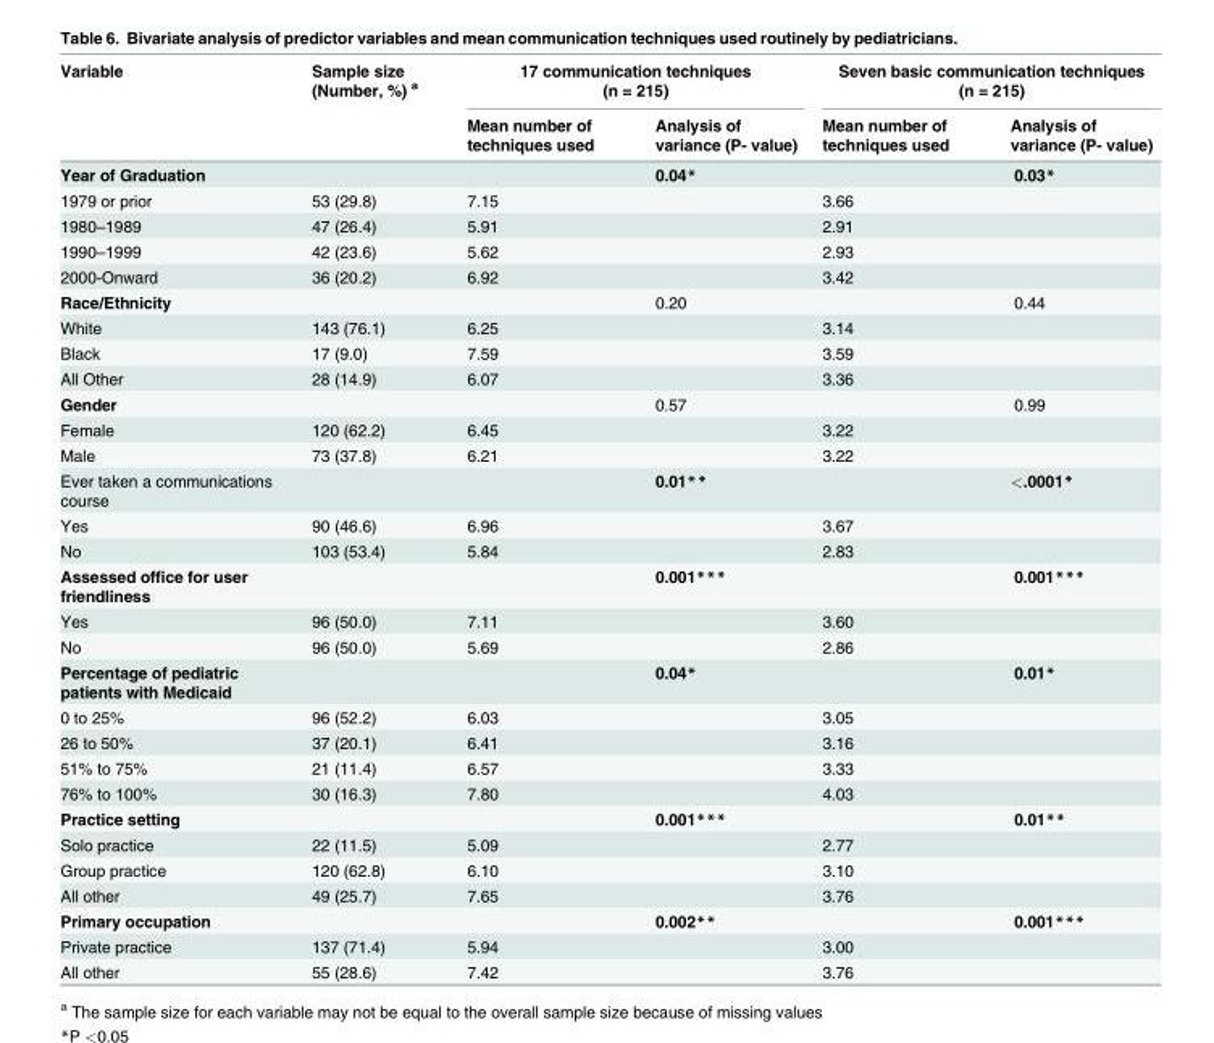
<table><thead><tr><td rowspan="2">Variable</td><td rowspan="2">Sample size (Number, %) <sup>a</sup></td><td colspan="2">17 communication techniques (n = 215)</td><td colspan="2">Seven basic communication techniques (n = 215)</td></tr><tr><td>Mean number of techniques used</td><td>Analysis of variance (P- value)</td><td>Mean number of techniques used</td><td>Analysis of variance (P- value)</td></tr></thead><tbody><tr><td>Year of Graduation</td><td></td><td></td><td>0.04*</td><td></td><td>0.03*</td></tr><tr><td>1979 or prior</td><td>53 (29.8)</td><td>7.15</td><td></td><td>3.66</td><td></td></tr><tr><td>1980–1989</td><td>47 (26.4)</td><td>5.91</td><td></td><td>2.91</td><td></td></tr><tr><td>1990–1999</td><td>42 (23.6)</td><td>5.62</td><td></td><td>2.93</td><td></td></tr><tr><td>2000-Onward</td><td>36 (20.2)</td><td>6.92</td><td></td><td>3.42</td><td></td></tr><tr><td>Race/Ethnicity</td><td></td><td></td><td>0.20</td><td></td><td>0.44</td></tr><tr><td>White</td><td>143 (76.1)</td><td>6.25</td><td></td><td>3.14</td><td></td></tr><tr><td>Black</td><td>17 (9.0)</td><td>7.59</td><td></td><td>3.59</td><td></td></tr><tr><td>All Other</td><td>28 (14.9)</td><td>6.07</td><td></td><td>3.36</td><td></td></tr><tr><td>Gender</td><td></td><td></td><td>0.57</td><td></td><td>0.99</td></tr><tr><td>Female</td><td>120 (62.2)</td><td>6.45</td><td></td><td>3.22</td><td></td></tr><tr><td>Male</td><td>73 (37.8)</td><td>6.21</td><td></td><td>3.22</td><td></td></tr><tr><td>Ever taken a communications course</td><td></td><td></td><td>0.01**</td><td></td><td>&lt;.0001*</td></tr><tr><td>Yes</td><td>90 (46.6)</td><td>6.96</td><td></td><td>3.67</td><td></td></tr><tr><td>No</td><td>103 (53.4)</td><td>5.84</td><td></td><td>2.83</td><td></td></tr><tr><td>Assessed office for user friendliness</td><td></td><td></td><td>0.001***</td><td></td><td>0.001***</td></tr><tr><td>Yes</td><td>96 (50.0)</td><td>7.11</td><td></td><td>3.60</td><td></td></tr><tr><td>No</td><td>96 (50.0)</td><td>5.69</td><td></td><td>2.86</td><td></td></tr><tr><td>Percentage of pediatric patients with Medicaid</td><td></td><td></td><td>0.04*</td><td></td><td>0.01*</td></tr><tr><td>0 to 25%</td><td>96 (52.2)</td><td>6.03</td><td></td><td>3.05</td><td></td></tr><tr><td>26 to 50%</td><td>37 (20.1)</td><td>6.41</td><td></td><td>3.16</td><td></td></tr><tr><td>51% to 75%</td><td>21 (11.4)</td><td>6.57</td><td></td><td>3.33</td><td></td></tr><tr><td>76% to 100%</td><td>30 (16.3)</td><td>7.80</td><td></td><td>4.03</td><td></td></tr><tr><td>Practice setting</td><td></td><td></td><td>0.001***</td><td></td><td>0.01**</td></tr><tr><td>Solo practice</td><td>22 (11.5)</td><td>5.09</td><td></td><td>2.77</td><td></td></tr><tr><td>Group practice</td><td>120 (62.8)</td><td>6.10</td><td></td><td>3.10</td><td></td></tr><tr><td>All other</td><td>49 (25.7)</td><td>7.65</td><td></td><td>3.76</td><td></td></tr><tr><td>Primary occupation</td><td></td><td></td><td>0.002**</td><td></td><td>0.001***</td></tr><tr><td>Private practice</td><td>137 (71.4)</td><td>5.94</td><td></td><td>3.00</td><td></td></tr><tr><td>All other</td><td>55 (28.6)</td><td>7.42</td><td></td><td>3.76</td><td></td></tr></tbody></table>